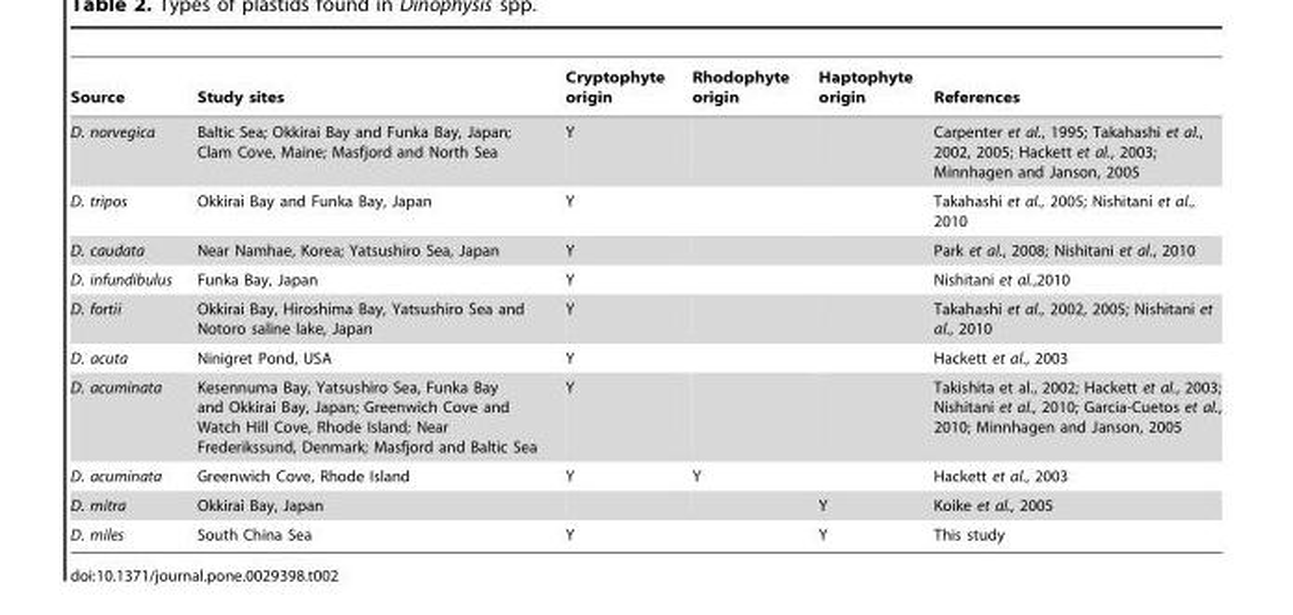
<table><thead><tr><td>Source</td><td>Study sites</td><td>Cryptophyte origin</td><td>Rhodophyte origin</td><td>Haptophyte origin</td><td>References</td></tr></thead><tbody><tr><td>D. norvegica</td><td>Baltic Sea; Okkirai Bay and Funka Bay, Japan; Clam Cove, Maine; Masfjord and North Sea</td><td>Y</td><td></td><td></td><td>Carpenter et al., 1995; Takahashi et al., 2002, 2005; Hackett et al., 2003; Minnhagen and Janson, 2005</td></tr><tr><td>D. tripos</td><td>Okkirai Bay and Funka Bay, Japan</td><td>Y</td><td></td><td></td><td>Takahashi et al., 2005; Nishitani et al., 2010</td></tr><tr><td>D. caudata</td><td>Near Namhae, Korea; Yatsushiro Sea, Japan</td><td>Y</td><td></td><td></td><td>Park et al., 2008; Nishitani et al., 2010</td></tr><tr><td>D. infundibulus</td><td>Funka Bay, Japan</td><td>Y</td><td></td><td></td><td>Nishitani et al.,2010</td></tr><tr><td>D. fortii</td><td>Okkirai Bay, Hiroshima Bay, Yatsushiro Sea and Notoro saline lake, Japan</td><td>Y</td><td></td><td></td><td>Takahashi et al., 2002, 2005; Nishitani et al., 2010</td></tr><tr><td>D. acuta</td><td>Ninigret Pond, USA</td><td>Y</td><td></td><td></td><td>Hackett et al., 2003</td></tr><tr><td>D. acuminata</td><td>Kesennuma Bay, Yatsushiro Sea, Funka Bay and Okkirai Bay, Japan; Greenwich Cove and Watch Hill Cove, Rhode Island; Near Frederikssund, Denmark; Masfjord and Baltic Sea</td><td>Y</td><td></td><td></td><td>Takishita et al., 2002; Hackett et al., 2003; Nishitani et al., 2010; Garcia-Cuetos et al., 2010; Minnhagen and Janson, 2005</td></tr><tr><td>D. acuminata</td><td>Greenwich Cove, Rhode Island</td><td>Y</td><td>Y</td><td></td><td>Hackett et al., 2003</td></tr><tr><td>D. mitra</td><td>Okkirai Bay, Japan</td><td></td><td></td><td>Y</td><td>Koike et al., 2005</td></tr><tr><td>D. miles</td><td>South China Sea</td><td>Y</td><td></td><td>Y</td><td>This study</td></tr></tbody></table>